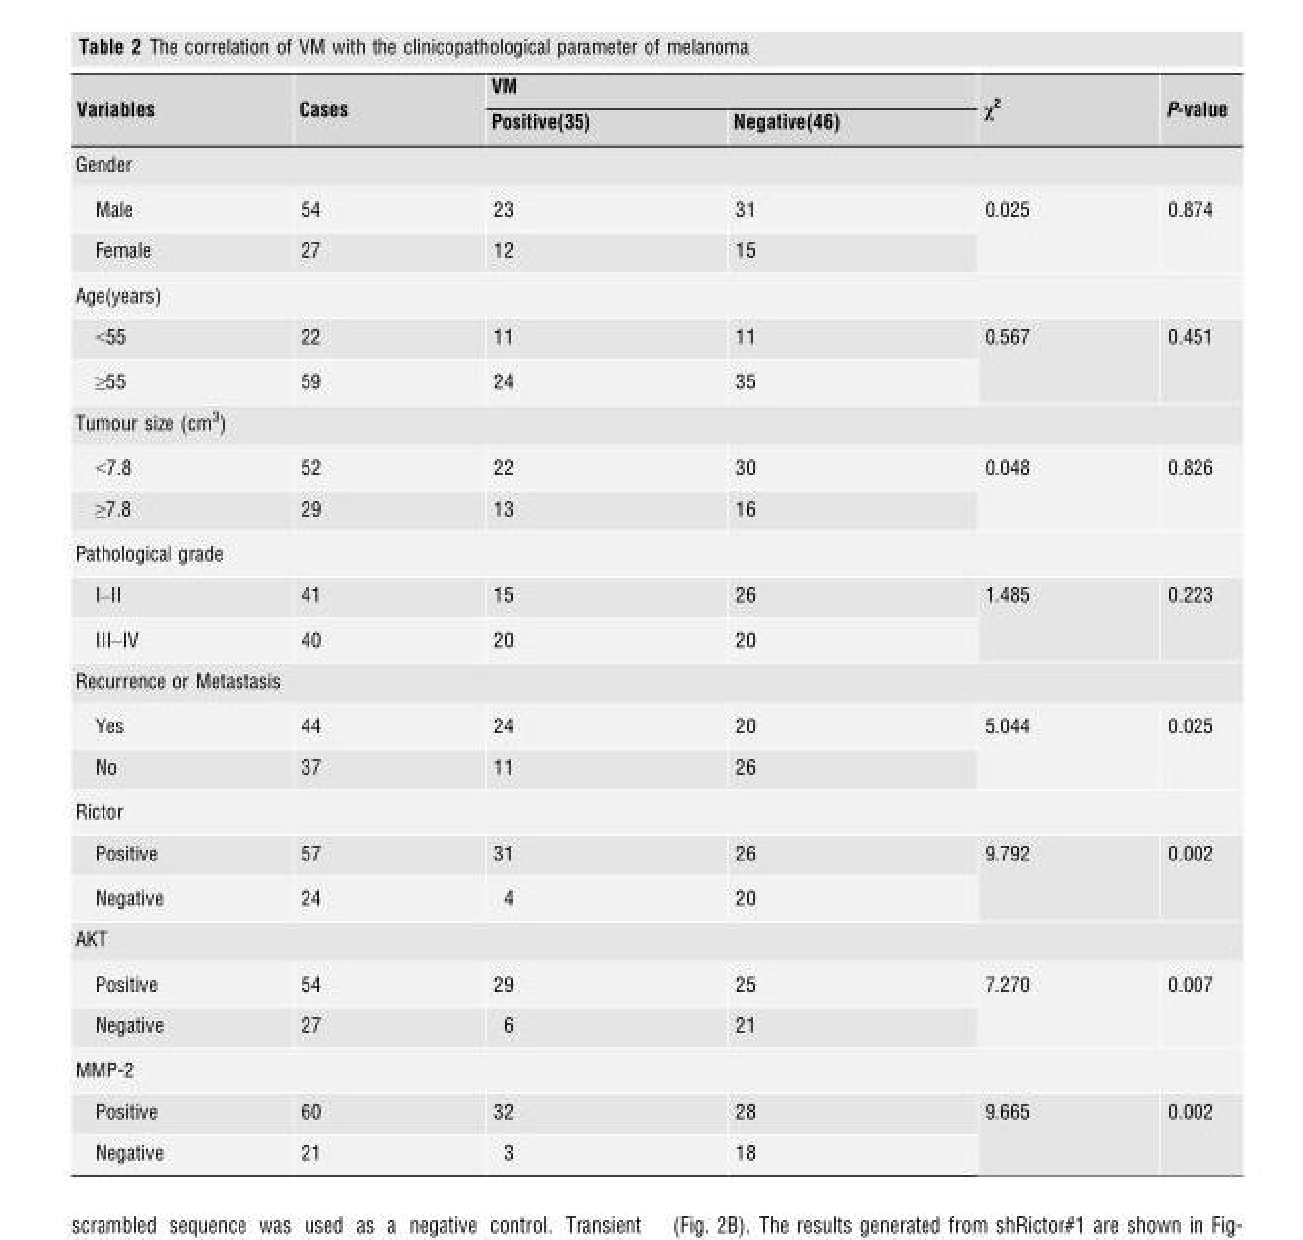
<table><thead><tr><td rowspan="2">Variables</td><td rowspan="2">Cases</td><td colspan="2">VM</td><td rowspan="2">χ<sup>2</sup></td><td rowspan="2">P-value</td></tr><tr><td>Positive(35)</td><td>Negative(46)</td></tr></thead><tbody><tr><td colspan="6">Gender</td></tr><tr><td>Male</td><td>54</td><td>23</td><td>31</td><td rowspan="2">0.025</td><td rowspan="2">0.874</td></tr><tr><td>Female</td><td>27</td><td>12</td><td>15</td></tr><tr><td colspan="6">Age(years)</td></tr><tr><td>&lt;55</td><td>22</td><td>11</td><td>11</td><td rowspan="2">0.567</td><td rowspan="2">0.451</td></tr><tr><td>≥55</td><td>59</td><td>24</td><td>35</td></tr><tr><td colspan="6">Tumour size (cm<sup>3</sup>)</td></tr><tr><td>&lt;7.8</td><td>52</td><td>22</td><td>30</td><td rowspan="2">0.048</td><td rowspan="2">0.826</td></tr><tr><td>≥7.8</td><td>29</td><td>13</td><td>16</td></tr><tr><td colspan="6">Pathological grade</td></tr><tr><td>I–II</td><td>41</td><td>15</td><td>26</td><td rowspan="2">1.485</td><td rowspan="2">0.223</td></tr><tr><td>III–IV</td><td>40</td><td>20</td><td>20</td></tr><tr><td colspan="6">Recurrence or Metastasis</td></tr><tr><td>Yes</td><td>44</td><td>24</td><td>20</td><td rowspan="2">5.044</td><td rowspan="2">0.025</td></tr><tr><td>No</td><td>37</td><td>11</td><td>26</td></tr><tr><td colspan="6">Rictor</td></tr><tr><td>Positive</td><td>57</td><td>31</td><td>26</td><td rowspan="2">9.792</td><td rowspan="2">0.002</td></tr><tr><td>Negative</td><td>24</td><td>4</td><td>20</td></tr><tr><td colspan="6">AKT</td></tr><tr><td>Positive</td><td>54</td><td>29</td><td>25</td><td rowspan="2">7.270</td><td rowspan="2">0.007</td></tr><tr><td>Negative</td><td>27</td><td>6</td><td>21</td></tr><tr><td colspan="6">MMP-2</td></tr><tr><td>Positive</td><td>60</td><td>32</td><td>28</td><td rowspan="2">9.665</td><td rowspan="2">0.002</td></tr><tr><td>Negative</td><td>21</td><td>3</td><td>18</td></tr></tbody></table>